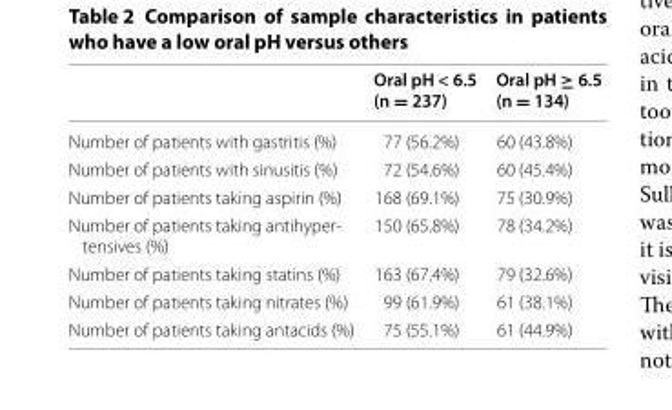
<table><thead><tr><td></td><td>Oral pH &lt; 6.5 (n = 237)</td><td>Oral pH ≥ 6.5 (n = 134)</td></tr></thead><tbody><tr><td>Number of patients with gastritis (%)</td><td>77 (56.2%)</td><td>60 (43.8%)</td></tr><tr><td>Number of patients with sinusitis (%)</td><td>72 (54.6%)</td><td>60 (45.4%)</td></tr><tr><td>Number of patients taking aspirin (%)</td><td>168 (69.1%)</td><td>75 (30.9%)</td></tr><tr><td>Number of patients taking antihyper- tensives (%)</td><td>150 (65.8%)</td><td>78 (34.2%)</td></tr><tr><td>Number of patients taking statins (%)</td><td>163 (67.4%)</td><td>79 (32.6%)</td></tr><tr><td>Number of patients taking nitrates (%)</td><td>99 (61.9%)</td><td>61 (38.1%)</td></tr><tr><td>Number of patients taking antacids (%)</td><td>75 (55.1%)</td><td>61 (44.9%)</td></tr></tbody></table>